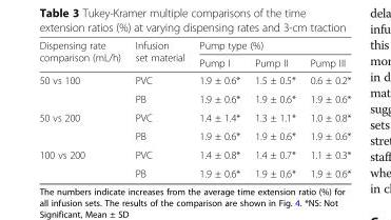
<table><thead><tr><td rowspan="2">Dispensing rate comparison (mL/h)</td><td rowspan="2">Infusion set material</td><td colspan="3">Pump type (%)</td></tr><tr><td>Pump I</td><td>Pump II</td><td>Pump III</td></tr></thead><tbody><tr><td rowspan="2">50 vs 100</td><td>PVC</td><td>1.9 ± 0.6*</td><td>1.5 ± 0.5*</td><td>0.6 ± 0.2*</td></tr><tr><td>PB</td><td>1.9 ± 0.6*</td><td>1.9 ± 0.6*</td><td>1.9 ± 0.6*</td></tr><tr><td rowspan="2">50 vs 200</td><td>PVC</td><td>1.4 ± 1.4*</td><td>1.3 ± 1.1*</td><td>1.0 ± 0.8*</td></tr><tr><td>PB</td><td>1.9 ± 0.6*</td><td>1.9 ± 0.6*</td><td>1.9 ± 0.6*</td></tr><tr><td rowspan="2">100 vs 200</td><td>PVC</td><td>1.4 ± 0.8*</td><td>1.4 ± 0.7*</td><td>1.1 ± 0.3*</td></tr><tr><td>PB</td><td>1.9 ± 0.6*</td><td>1.9 ± 0.6*</td><td>1.9 ± 0.6*</td></tr></tbody></table>